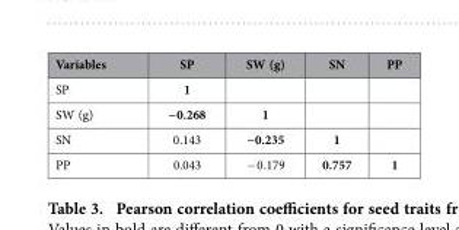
<table><thead><tr><td>Variables</td><td>SP</td><td>SW (g)</td><td>SN</td><td>PP</td></tr></thead><tbody><tr><td>SP</td><td>1</td><td></td><td></td><td></td></tr><tr><td>SW (g)</td><td>− 0.268</td><td>1</td><td></td><td></td></tr><tr><td>SN</td><td>0.143</td><td>− 0.235</td><td>1</td><td></td></tr><tr><td>PP</td><td>0.043</td><td>− 0.179</td><td>0.757</td><td>1</td></tr></tbody></table>